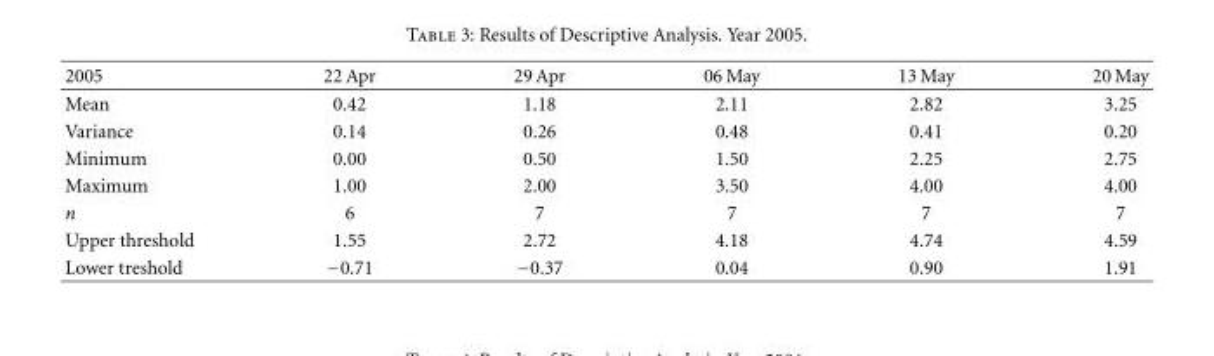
<table><thead><tr><td>2005</td><td>22 Apr</td><td>29 Apr</td><td>06 May</td><td>13 May</td><td>20 May</td></tr></thead><tbody><tr><td>Mean</td><td>0.42</td><td>1.18</td><td>2.11</td><td>2.82</td><td>3.25</td></tr><tr><td>Variance</td><td>0.14</td><td>0.26</td><td>0.48</td><td>0.41</td><td>0.20</td></tr><tr><td>Minimum</td><td>0.00</td><td>0.50</td><td>1.50</td><td>2.25</td><td>2.75</td></tr><tr><td>Maximum</td><td>1.00</td><td>2.00</td><td>3.50</td><td>4.00</td><td>4.00</td></tr><tr><td>n</td><td>6</td><td>7</td><td>7</td><td>7</td><td>7</td></tr><tr><td>Upper threshold</td><td>1.55</td><td>2.72</td><td>4.18</td><td>4.74</td><td>4.59</td></tr><tr><td>Lower treshold</td><td>−0.71</td><td>−0.37</td><td>0.04</td><td>0.90</td><td>1.91</td></tr></tbody></table>